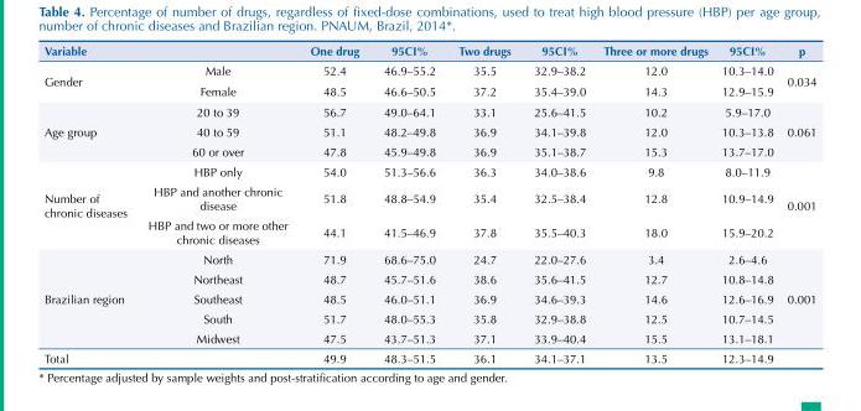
<table><thead><tr><td>Variable</td><td></td><td>One drug</td><td>95CI%</td><td>Two drugs</td><td>95CI%</td><td>Three or more drugs</td><td>95CI%</td><td>p</td></tr></thead><tbody><tr><td rowspan="2">Gender</td><td>Male</td><td>52.4</td><td>46.9–55.2</td><td>35.5</td><td>32.9–38.2</td><td>12.0</td><td>10.3–14.0</td><td rowspan="2">0.034</td></tr><tr><td>Female</td><td>48.5</td><td>46.6–50.5</td><td>37.2</td><td>35.4–39.0</td><td>14.3</td><td>12.9–15.9</td></tr><tr><td rowspan="3">Age group</td><td>20 to 39</td><td>56.7</td><td>49.0–64.1</td><td>33.1</td><td>25.6–41.5</td><td>10.2</td><td>5.9–17.0</td><td rowspan="3">0.061</td></tr><tr><td>40 to 59</td><td>51.1</td><td>48.2–49.8</td><td>36.9</td><td>34.1–39.8</td><td>12.0</td><td>10.3–13.8</td></tr><tr><td>60 or over</td><td>47.8</td><td>45.9–49.8</td><td>36.9</td><td>35.1–38.7</td><td>15.3</td><td>13.7–17.0</td></tr><tr><td rowspan="3">Number of chronic diseases</td><td>HBP only</td><td>54.0</td><td>51.3–56.6</td><td>36.3</td><td>34.0–38.6</td><td>9.8</td><td>8.0–11.9</td><td rowspan="3">0.001</td></tr><tr><td>HBP and another chronic disease</td><td>51.8</td><td>48.8–54.9</td><td>35.4</td><td>32.5–38.4</td><td>12.8</td><td>10.9–14.9</td></tr><tr><td>HBP and two or more other chronic diseases</td><td>44.1</td><td>41.5–46.9</td><td>37.8</td><td>35.5–40.3</td><td>18.0</td><td>15.9–20.2</td></tr><tr><td rowspan="5">Brazilian region</td><td>North</td><td>71.9</td><td>68.6–75.0</td><td>24.7</td><td>22.0–27.6</td><td>3.4</td><td>2.6–4.6</td><td rowspan="5">0.001</td></tr><tr><td>Northeast</td><td>48.7</td><td>45.7–51.6</td><td>38.6</td><td>35.6–41.5</td><td>12.7</td><td>10.8–14.8</td></tr><tr><td>Southeast</td><td>48.5</td><td>46.0–51.1</td><td>36.9</td><td>34.6–39.3</td><td>14.6</td><td>12.6–16.9</td></tr><tr><td>South</td><td>51.7</td><td>48.0–55.3</td><td>35.8</td><td>32.9–38.8</td><td>12.5</td><td>10.7–14.5</td></tr><tr><td>Midwest</td><td>47.5</td><td>43.7–51.3</td><td>37.1</td><td>33.9–40.4</td><td>15.5</td><td>13.1–18.1</td></tr><tr><td>Total</td><td></td><td>49.9</td><td>48.3–51.5</td><td>36.1</td><td>34.1–37.1</td><td>13.5</td><td>12.3–14.9</td><td></td></tr></tbody></table>